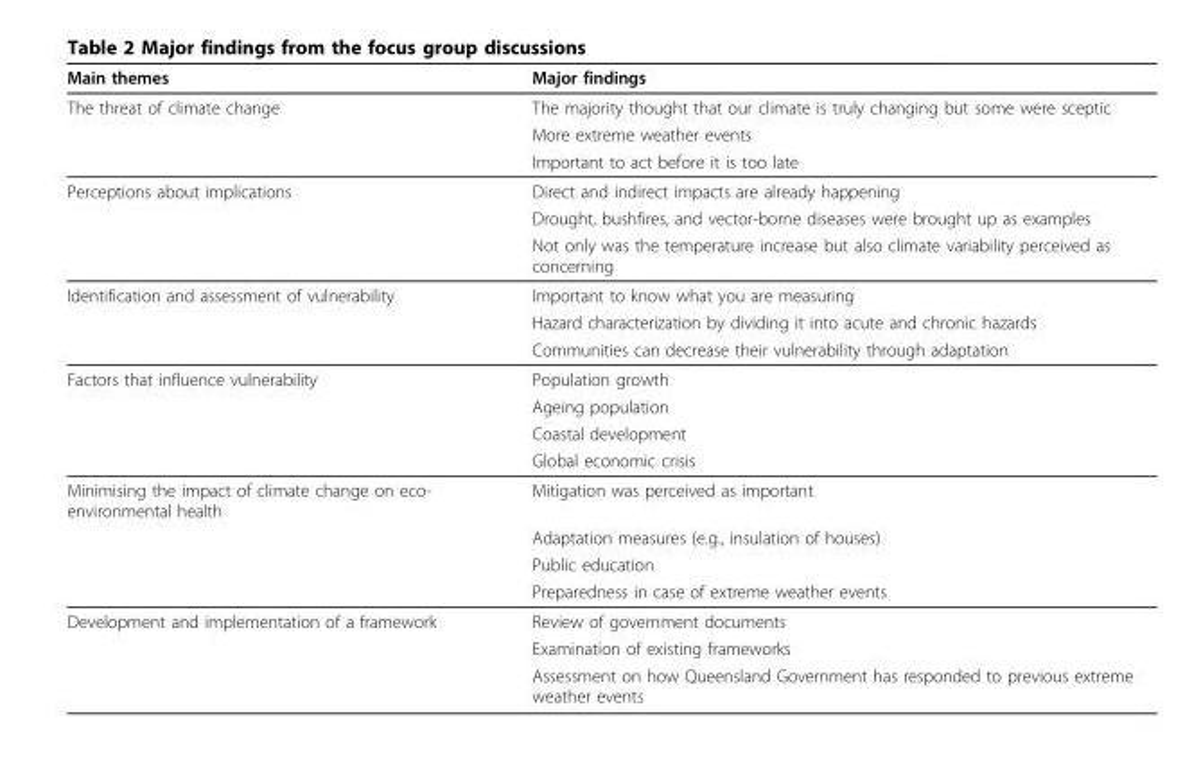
<table><thead><tr><td>Main themes</td><td>Major findings</td></tr></thead><tbody><tr><td rowspan="3">The threat of climate change</td><td>The majority thought that our climate is truly changing but some were sceptic</td></tr><tr><td>More extreme weather events</td></tr><tr><td>Important to act before it is too late</td></tr><tr><td rowspan="3">Perceptions about implications</td><td>Direct and indirect impacts are already happening</td></tr><tr><td>Drought, bushfires, and vector-borne diseases were brought up as examples</td></tr><tr><td>Not only was the temperature increase but also climate variability perceived as concerning</td></tr><tr><td rowspan="3">Identification and assessment of vulnerability</td><td>Important to know what you are measuring</td></tr><tr><td>Hazard characterization by dividing it into acute and chronic hazards</td></tr><tr><td>Communities can decrease their vulnerability through adaptation</td></tr><tr><td rowspan="4">Factors that influence vulnerability</td><td>Population growth</td></tr><tr><td>Ageing population</td></tr><tr><td>Coastal development</td></tr><tr><td>Global economic crisis</td></tr><tr><td rowspan="4">Minimising the impact of climate change on eco- environmental health</td><td>Mitigation was perceived as important</td></tr><tr><td>Adaptation measures (e.g., insulation of houses)</td></tr><tr><td>Public education</td></tr><tr><td>Preparedness in case of extreme weather events</td></tr><tr><td rowspan="3">Development and implementation of a framework</td><td>Review of government documents</td></tr><tr><td>Examination of existing frameworks</td></tr><tr><td>Assessment on how Queensland Government has responded to previous extreme weather events</td></tr></tbody></table>